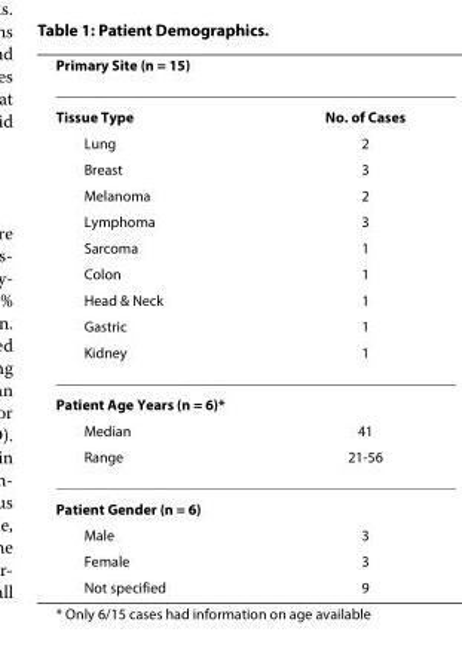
<table><thead><tr><td>Primary Site (n = 15)</td><td></td></tr></thead><tbody><tr><td>Tissue Type</td><td>No. of Cases</td></tr><tr><td>Lung</td><td>2</td></tr><tr><td>Breast</td><td>3</td></tr><tr><td>Melanoma</td><td>2</td></tr><tr><td>Lymphoma</td><td>3</td></tr><tr><td>Sarcoma</td><td>1</td></tr><tr><td>Colon</td><td>1</td></tr><tr><td>Head &amp; Neck</td><td>1</td></tr><tr><td>Gastric</td><td>1</td></tr><tr><td>Kidney</td><td>1</td></tr><tr><td colspan="2">Patient Age Years (n = 6)*</td></tr><tr><td>Median</td><td>41</td></tr><tr><td>Range</td><td>21-56</td></tr><tr><td colspan="2">Patient Gender (n = 6)</td></tr><tr><td>Male</td><td>3</td></tr><tr><td>Female</td><td>3</td></tr><tr><td>Not specified</td><td>9</td></tr></tbody></table>